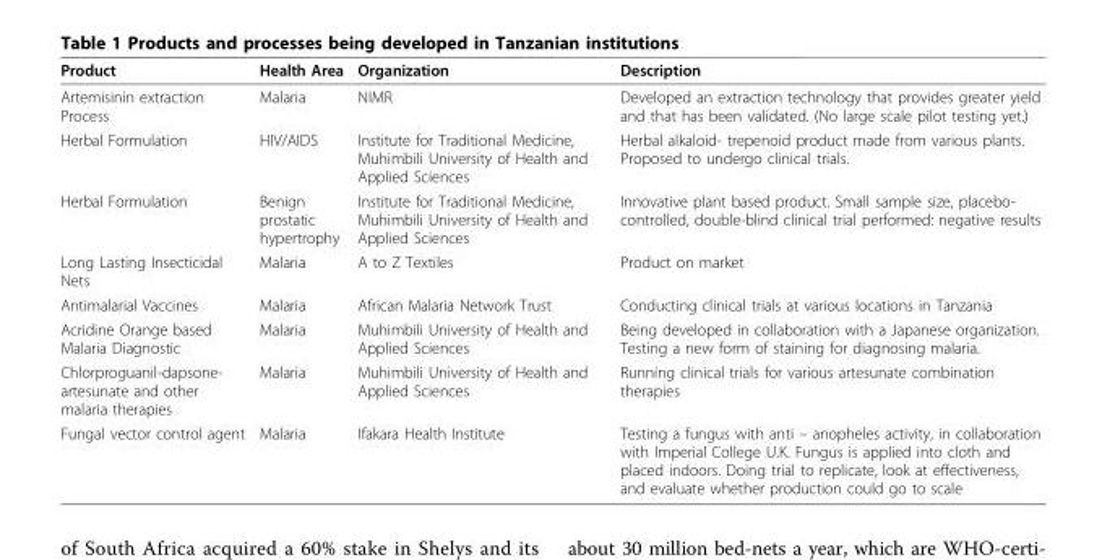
<table><thead><tr><td>Product</td><td>Health Area</td><td>Organization</td><td>Description</td></tr></thead><tbody><tr><td>Artemisinin extraction Process</td><td>Malaria</td><td>NIMR</td><td>Developed an extraction technology that provides greater yield and that has been validated. (No large scale pilot testing yet.)</td></tr><tr><td>Herbal Formulation</td><td>HIV/AIDS</td><td>Institute for Traditional Medicine, Muhimbili University of Health and Applied Sciences</td><td>Herbal alkaloid- trepenoid product made from various plants. Proposed to undergo clinical trials.</td></tr><tr><td>Herbal Formulation</td><td>Benign prostatic hypertrophy</td><td>Institute for Traditional Medicine, Muhimbili University of Health and Applied Sciences</td><td>Innovative plant based product. Small sample size, placebo- controlled, double-blind clinical trial performed: negative results</td></tr><tr><td>Long Lasting Insecticidal Nets</td><td>Malaria</td><td>A to Z Textiles</td><td>Product on market</td></tr><tr><td>Antimalarial Vaccines</td><td>Malaria</td><td>African Malaria Network Trust</td><td>Conducting clinical trials at various locations in Tanzania</td></tr><tr><td>Acridine Orange based Malaria Diagnostic</td><td>Malaria</td><td>Muhimbili University of Health and Applied Sciences</td><td>Being developed in collaboration with a Japanese organization. Testing a new form of staining for diagnosing malaria.</td></tr><tr><td>Chlorproguanil-dapsone- artesunate and other malaria therapies</td><td>Malaria</td><td>Muhimbili University of Health and Applied Sciences</td><td>Running clinical trials for various artesunate combination therapies</td></tr><tr><td>Fungal vector control agent</td><td>Malaria</td><td>Ifakara Health Institute</td><td>Testing a fungus with anti – anopheles activity, in collaboration with Imperial College U.K. Fungus is applied into cloth and placed indoors. Doing trial to replicate, look at effectiveness, and evaluate whether production could go to scale</td></tr></tbody></table>